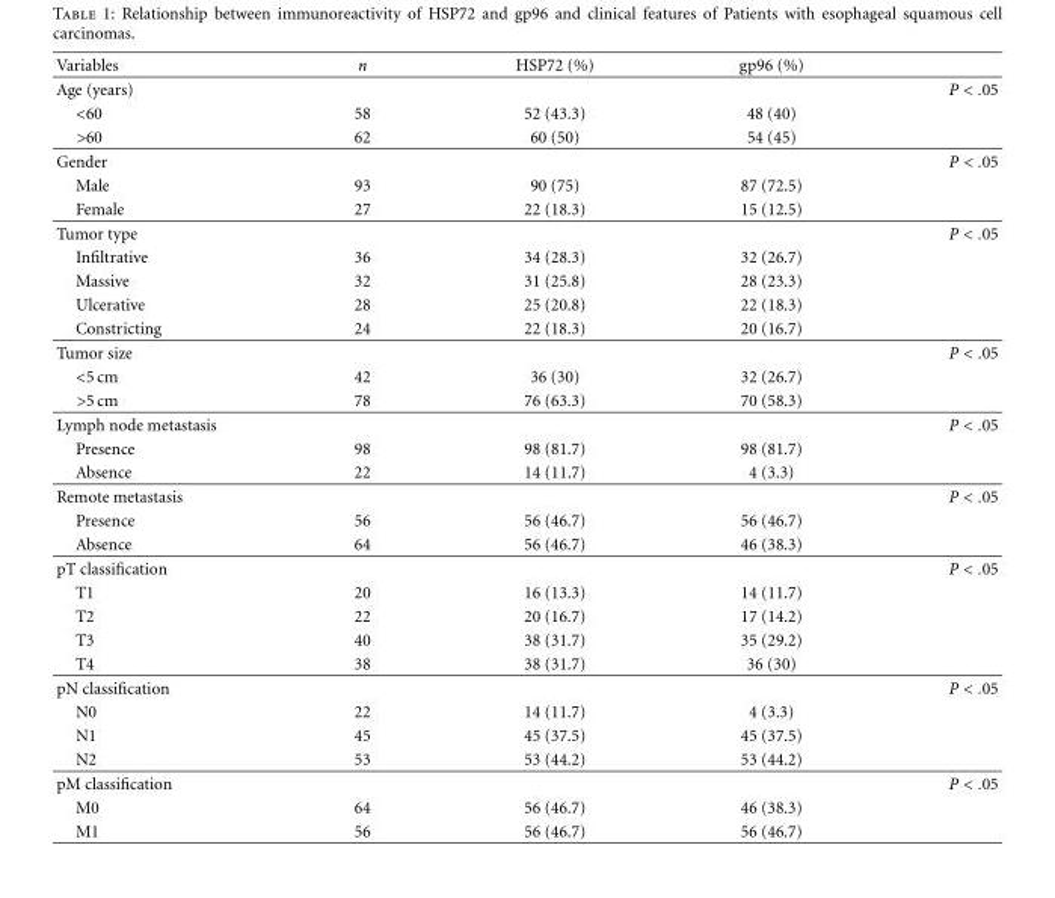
<table><thead><tr><td>Variables</td><td>n</td><td>HSP72 (%)</td><td>gp96 (%)</td><td></td></tr></thead><tbody><tr><td>Age (years)</td><td></td><td></td><td></td><td>P &lt; .05</td></tr><tr><td>&lt;60</td><td>58</td><td>52 (43.3)</td><td>48 (40)</td><td></td></tr><tr><td>&gt;60</td><td>62</td><td>60 (50)</td><td>54 (45)</td><td></td></tr><tr><td>Gender</td><td></td><td></td><td></td><td>P &lt; .05</td></tr><tr><td>Male</td><td>93</td><td>90 (75)</td><td>87 (72.5)</td><td></td></tr><tr><td>Female</td><td>27</td><td>22 (18.3)</td><td>15 (12.5)</td><td></td></tr><tr><td>Tumor type</td><td></td><td></td><td></td><td>P &lt; .05</td></tr><tr><td>Infiltrative</td><td>36</td><td>34 (28.3)</td><td>32 (26.7)</td><td></td></tr><tr><td>Massive</td><td>32</td><td>31 (25.8)</td><td>28 (23.3)</td><td></td></tr><tr><td>Ulcerative</td><td>28</td><td>25 (20.8)</td><td>22 (18.3)</td><td></td></tr><tr><td>Constricting</td><td>24</td><td>22 (18.3)</td><td>20 (16.7)</td><td></td></tr><tr><td>Tumor size</td><td></td><td></td><td></td><td>P &lt; .05</td></tr><tr><td>&lt;5 cm</td><td>42</td><td>36 (30)</td><td>32 (26.7)</td><td></td></tr><tr><td>&gt;5 cm</td><td>78</td><td>76 (63.3)</td><td>70 (58.3)</td><td></td></tr><tr><td>Lymph node metastasis</td><td></td><td></td><td></td><td>P &lt; .05</td></tr><tr><td>Presence</td><td>98</td><td>98 (81.7)</td><td>98 (81.7)</td><td></td></tr><tr><td>Absence</td><td>22</td><td>14 (11.7)</td><td>4 (3.3)</td><td></td></tr><tr><td>Remote metastasis</td><td></td><td></td><td></td><td>P &lt; .05</td></tr><tr><td>Presence</td><td>56</td><td>56 (46.7)</td><td>56 (46.7)</td><td></td></tr><tr><td>Absence</td><td>64</td><td>56 (46.7)</td><td>46 (38.3)</td><td></td></tr><tr><td>pT classification</td><td></td><td></td><td></td><td>P &lt; .05</td></tr><tr><td>T1</td><td>20</td><td>16 (13.3)</td><td>14 (11.7)</td><td></td></tr><tr><td>T2</td><td>22</td><td>20 (16.7)</td><td>17 (14.2)</td><td></td></tr><tr><td>T3</td><td>40</td><td>38 (31.7)</td><td>35 (29.2)</td><td></td></tr><tr><td>T4</td><td>38</td><td>38 (31.7)</td><td>36 (30)</td><td></td></tr><tr><td>pN classification</td><td></td><td></td><td></td><td>P &lt; .05</td></tr><tr><td>N0</td><td>22</td><td>14 (11.7)</td><td>4 (3.3)</td><td></td></tr><tr><td>N1</td><td>45</td><td>45 (37.5)</td><td>45 (37.5)</td><td></td></tr><tr><td>N2</td><td>53</td><td>53 (44.2)</td><td>53 (44.2)</td><td></td></tr><tr><td>pM classification</td><td></td><td></td><td></td><td>P &lt; .05</td></tr><tr><td>M0</td><td>64</td><td>56 (46.7)</td><td>46 (38.3)</td><td></td></tr><tr><td>M1</td><td>56</td><td>56 (46.7)</td><td>56 (46.7)</td><td></td></tr></tbody></table>